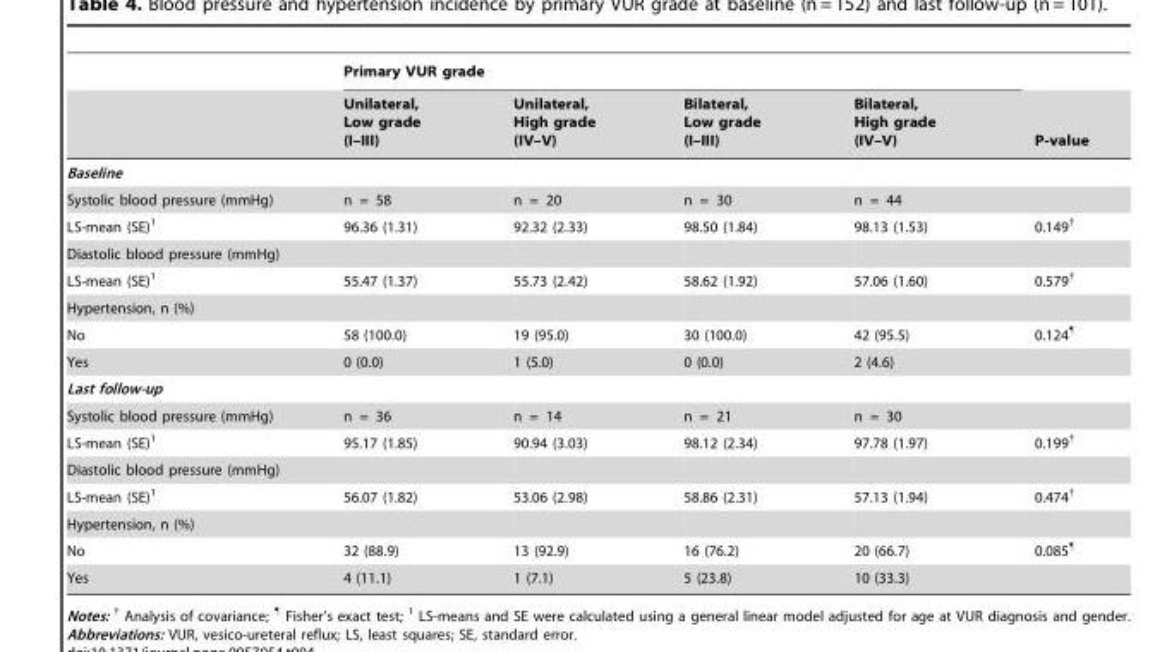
<table><thead><tr><td rowspan="2"></td><td colspan="4">Primary VUR grade</td><td rowspan="2">P-value</td></tr><tr><td>Unilateral, Low grade (I–III)</td><td>Unilateral, High grade (IV–V)</td><td>Bilateral, Low grade (I–III)</td><td>Bilateral, High grade (IV–V)</td></tr></thead><tbody><tr><td colspan="6">Baseline</td></tr><tr><td>Systolic blood pressure (mmHg)</td><td>n = 58</td><td>n = 20</td><td>n = 30</td><td>n = 44</td><td></td></tr><tr><td>LS-mean (SE)<sup>1</sup></td><td>96.36 (1.31)</td><td>92.32 (2.33)</td><td>98.50 (1.84)</td><td>98.13 (1.53)</td><td>0.149<sup>†</sup></td></tr><tr><td colspan="6">Diastolic blood pressure (mmHg)</td></tr><tr><td>LS-mean (SE)<sup>1</sup></td><td>55.47 (1.37)</td><td>55.73 (2.42)</td><td>58.62 (1.92)</td><td>57.06 (1.60)</td><td>0.579<sup>†</sup></td></tr><tr><td colspan="6">Hypertension, n (%)</td></tr><tr><td>No</td><td>58 (100.0)</td><td>19 (95.0)</td><td>30 (100.0)</td><td>42 (95.5)</td><td>0.124<sup>¶</sup></td></tr><tr><td>Yes</td><td>0 (0.0)</td><td>1 (5.0)</td><td>0 (0.0)</td><td>2 (4.6)</td><td></td></tr><tr><td colspan="6">Last follow-up</td></tr><tr><td>Systolic blood pressure (mmHg)</td><td>n = 36</td><td>n = 14</td><td>n = 21</td><td>n = 30</td><td></td></tr><tr><td>LS-mean (SE)<sup>1</sup></td><td>95.17 (1.85)</td><td>90.94 (3.03)</td><td>98.12 (2.34)</td><td>97.78 (1.97)</td><td>0.199<sup>†</sup></td></tr><tr><td colspan="6">Diastolic blood pressure (mmHg)</td></tr><tr><td>LS-mean (SE)<sup>1</sup></td><td>56.07 (1.82)</td><td>53.06 (2.98)</td><td>58.86 (2.31)</td><td>57.13 (1.94)</td><td>0.474<sup>†</sup></td></tr><tr><td colspan="6">Hypertension, n (%)</td></tr><tr><td>No</td><td>32 (88.9)</td><td>13 (92.9)</td><td>16 (76.2)</td><td>20 (66.7)</td><td>0.085<sup>¶</sup></td></tr><tr><td>Yes</td><td>4 (11.1)</td><td>1 (7.1)</td><td>5 (23.8)</td><td>10 (33.3)</td><td></td></tr></tbody></table>